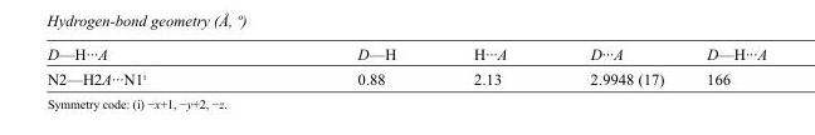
<table><tbody><tr><td>D—H···A</td><td>D—H</td><td>H···A</td><td>D···A</td><td>D—H···A</td></tr><tr><td>N2—H2A···N1<sup>i</sup></td><td>0.88</td><td>2.13</td><td>2.9948 (17)</td><td>166</td></tr></tbody></table>